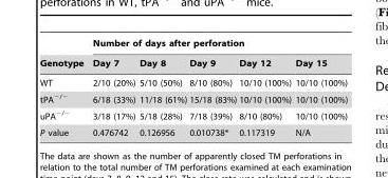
<table><thead><tr><td rowspan="2">Genotype</td><td colspan="5">Number of days after perforation</td></tr><tr><td>Day 7</td><td>Day 8</td><td>Day 9</td><td>Day 12</td><td>Day 15</td></tr></thead><tbody><tr><td>WT</td><td>2/10 (20%)</td><td>5/10 (50%)</td><td>8/10 (80%)</td><td>10/10 (100%)</td><td>10/10 (100%)</td></tr><tr><td>tPA<sup>−/−</sup></td><td>6/18 (33%)</td><td>11/18 (61%)</td><td>15/18 (83%)</td><td>10/10 (100%)</td><td>10/10 (100%)</td></tr><tr><td>uPA<sup>−/−</sup></td><td>3/18 (17%)</td><td>5/18 (28%)</td><td>7/18 (39%)</td><td>8/10 (80%)</td><td>10/10 (100%)</td></tr><tr><td>P value</td><td>0.476742</td><td>0.126956</td><td>0.010738*</td><td>0.117319</td><td>N/A</td></tr></tbody></table>